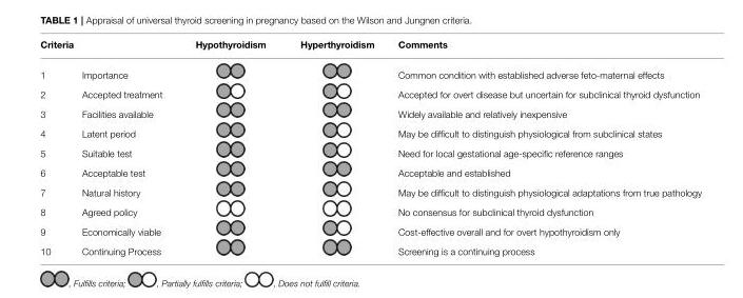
<table><thead><tr><td colspan="2">Criteria</td><td rowspan="2">Hypothyroidism</td><td rowspan="2">Hyperthyroidism</td><td rowspan="2">Comments Common condition with established adverse feto-maternal effects</td></tr><tr><td>1</td><td>Importance</td></tr></thead><tbody><tr><td>2</td><td>Accepted treatment</td><td></td><td></td><td>Accepted for overt disease but uncertain for subclinical thyroid dysfunction</td></tr><tr><td>3</td><td>Facilities available</td><td></td><td></td><td>Widely available and relatively inexpensive</td></tr><tr><td>4</td><td>Latent period</td><td></td><td></td><td>May be difficult to distinguish physiological from subclinical states</td></tr><tr><td>5</td><td>Suitable test</td><td></td><td></td><td>Need for local gestational age-specific reference ranges</td></tr><tr><td>6</td><td>Acceptable test</td><td></td><td></td><td>Acceptable and established</td></tr><tr><td>7</td><td>Natural history</td><td></td><td></td><td>May be difficult to distinguish physiological adaptations from true pathology</td></tr><tr><td>8</td><td>Agreed policy</td><td></td><td></td><td>No consensus for subclinical thyroid dysfunction</td></tr><tr><td>9</td><td>Economically viable</td><td></td><td></td><td>Cost-effective overall and for overt hypothyroidism only</td></tr><tr><td>10</td><td>Continuing Process</td><td></td><td></td><td>Screening is a continuing process</td></tr></tbody></table>